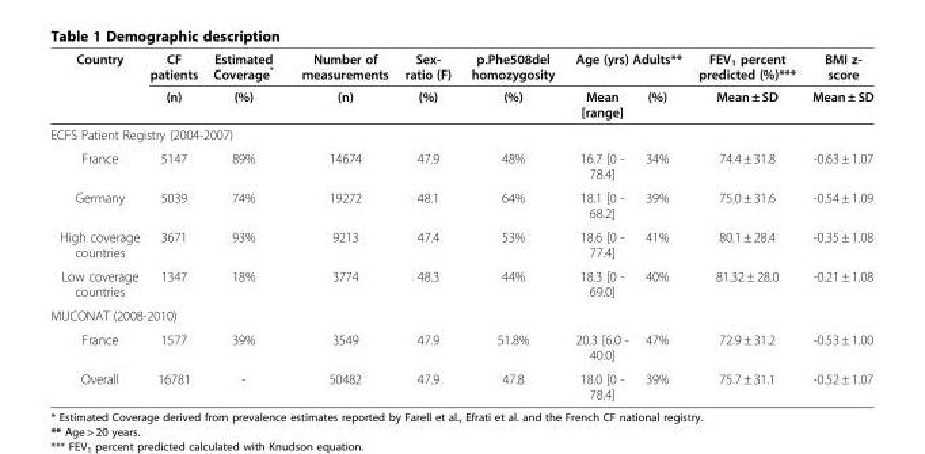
<table><thead><tr><td rowspan="2">Country</td><td rowspan="2">CF patients (n)</td><td rowspan="2">Estimated Coverage* (%)</td><td rowspan="2">Number of measurements (n)</td><td rowspan="2">Sex- ratio (F) (%)</td><td rowspan="2">p.Phe508del homozygosity (%)</td><td rowspan="2">Age (yrs) Mean [range]</td><td rowspan="2">Adults** (%)</td><td rowspan="2">FEV<sub>1</sub> percent predicted (%)*** Mean ± SD</td><td rowspan="2">BMI z- score Mean ± SD</td></tr><tr></tr></thead><tbody><tr><td colspan="10">ECFS Patient Registry (2004-2007)</td></tr><tr><td>France</td><td>5147</td><td>89%</td><td>14674</td><td>47.9</td><td>48%</td><td>16.7 [0 - 78.4]</td><td>34%</td><td>74.4 ± 31.8</td><td>-0.63 ± 1.07</td></tr><tr><td>Germany</td><td>5039</td><td>74%</td><td>19272</td><td>48.1</td><td>64%</td><td>18.1 [0 - 68.2]</td><td>39%</td><td>75.0 ± 31.6</td><td>-0.54 ± 1.09</td></tr><tr><td>High coverage countries</td><td>3671</td><td>93%</td><td>9213</td><td>47.4</td><td>53%</td><td>18.6 [0 - 77.4]</td><td>41%</td><td>80.1 ± 28.4</td><td>-0.35 ± 1.08</td></tr><tr><td>Low coverage countries</td><td>1347</td><td>18%</td><td>3774</td><td>48.3</td><td>44%</td><td>18.3 [0 - 69.0]</td><td>40%</td><td>81.32 ± 28.0</td><td>-0.21 ± 1.08</td></tr><tr><td colspan="10">MUCONAT (2008-2010)</td></tr><tr><td>France</td><td>1577</td><td>39%</td><td>3549</td><td>47.9</td><td>51.8%</td><td>20.3 [6.0 - 40.0]</td><td>47%</td><td>72.9 ± 31.2</td><td>-0.53 ± 1.00</td></tr><tr><td>Overall</td><td>16781</td><td>-</td><td>50482</td><td>47.9</td><td>47.8</td><td>18.0 [0 - 78.4]</td><td>39%</td><td>75.7 ± 31.1</td><td>-0.52 ± 1.07</td></tr></tbody></table>